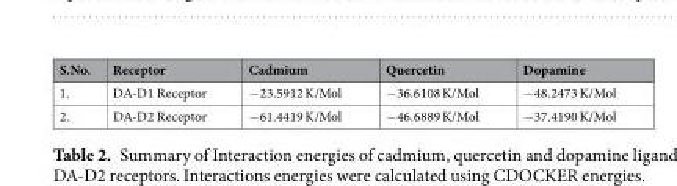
<table><thead><tr><td>S.No.</td><td>Receptor</td><td>Cadmium</td><td>Quercetin</td><td>Dopamine</td></tr></thead><tbody><tr><td>1.</td><td>DA-D1 Receptor</td><td>−23.5912 K/Mol</td><td>−36.6108 K/Mol</td><td>−48.2473 K/Mol</td></tr><tr><td>2.</td><td>DA-D2 Receptor</td><td>−61.4419 K/Mol</td><td>−46.6889 K/Mol</td><td>−37.4190 K/Mol</td></tr></tbody></table>